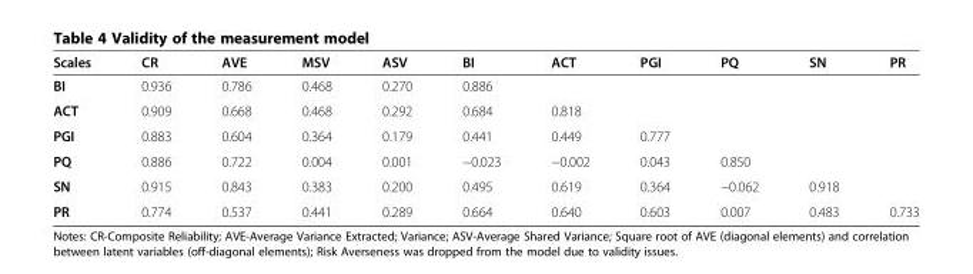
<table><thead><tr><td>Scales</td><td>CR</td><td>AVE</td><td>MSV</td><td>ASV</td><td>BI</td><td>ACT</td><td>PGI</td><td>PQ</td><td>SN</td><td>PR</td></tr></thead><tbody><tr><td>BI</td><td>0.936</td><td>0.786</td><td>0.468</td><td>0.270</td><td>0.886</td><td></td><td></td><td></td><td></td><td></td></tr><tr><td>ACT</td><td>0.909</td><td>0.668</td><td>0.468</td><td>0.292</td><td>0.684</td><td>0.818</td><td></td><td></td><td></td><td></td></tr><tr><td>PGI</td><td>0.883</td><td>0.604</td><td>0.364</td><td>0.179</td><td>0.441</td><td>0.449</td><td>0.777</td><td></td><td></td><td></td></tr><tr><td>PQ</td><td>0.886</td><td>0.722</td><td>0.004</td><td>0.001</td><td>−0.023</td><td>−0.002</td><td>0.043</td><td>0.850</td><td></td><td></td></tr><tr><td>SN</td><td>0.915</td><td>0.843</td><td>0.383</td><td>0.200</td><td>0.495</td><td>0.619</td><td>0.364</td><td>−0.062</td><td>0.918</td><td></td></tr><tr><td>PR</td><td>0.774</td><td>0.537</td><td>0.441</td><td>0.289</td><td>0.664</td><td>0.640</td><td>0.603</td><td>0.007</td><td>0.483</td><td>0.733</td></tr></tbody></table>